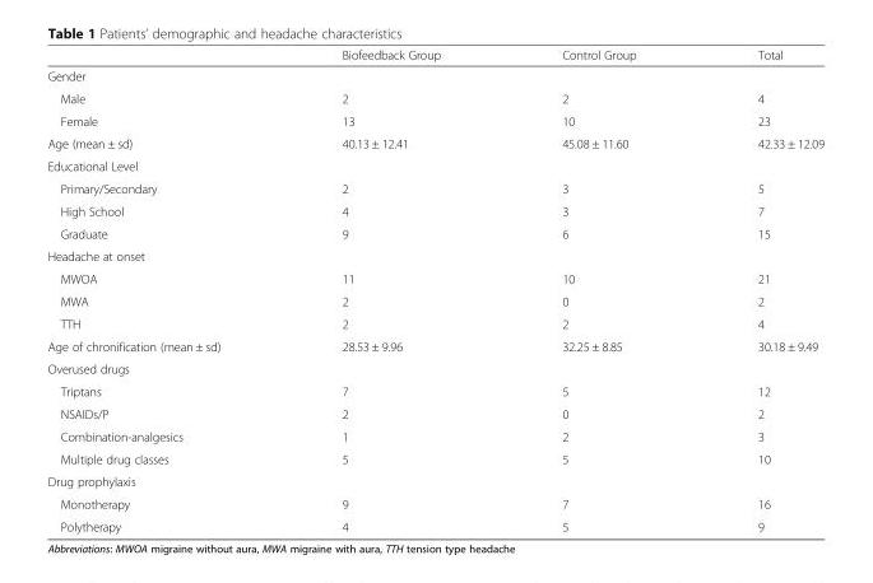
<table><thead><tr><td></td><td>Biofeedback Group</td><td>Control Group</td><td>Total</td></tr></thead><tbody><tr><td colspan="4">Gender</td></tr><tr><td>Male</td><td>2</td><td>2</td><td>4</td></tr><tr><td>Female</td><td>13</td><td>10</td><td>23</td></tr><tr><td>Age (mean ± sd)</td><td>40.13 ± 12.41</td><td>45.08 ± 11.60</td><td>42.33 ± 12.09</td></tr><tr><td colspan="4">Educational Level</td></tr><tr><td>Primary/Secondary</td><td>2</td><td>3</td><td>5</td></tr><tr><td>High School</td><td>4</td><td>3</td><td>7</td></tr><tr><td>Graduate</td><td>9</td><td>6</td><td>15</td></tr><tr><td colspan="4">Headache at onset</td></tr><tr><td>MWOA</td><td>11</td><td>10</td><td>21</td></tr><tr><td>MWA</td><td>2</td><td>0</td><td>2</td></tr><tr><td>TTH</td><td>2</td><td>2</td><td>4</td></tr><tr><td>Age of chronification (mean ± sd)</td><td>28.53 ± 9.96</td><td>32.25 ± 8.85</td><td>30.18 ± 9.49</td></tr><tr><td colspan="4">Overused drugs</td></tr><tr><td>Triptans</td><td>7</td><td>5</td><td>12</td></tr><tr><td>NSAIDs/P</td><td>2</td><td>0</td><td>2</td></tr><tr><td>Combination-analgesics</td><td>1</td><td>2</td><td>3</td></tr><tr><td>Multiple drug classes</td><td>5</td><td>5</td><td>10</td></tr><tr><td colspan="4">Drug prophylaxis</td></tr><tr><td>Monotherapy</td><td>9</td><td>7</td><td>16</td></tr><tr><td>Polytherapy</td><td>4</td><td>5</td><td>9</td></tr></tbody></table>